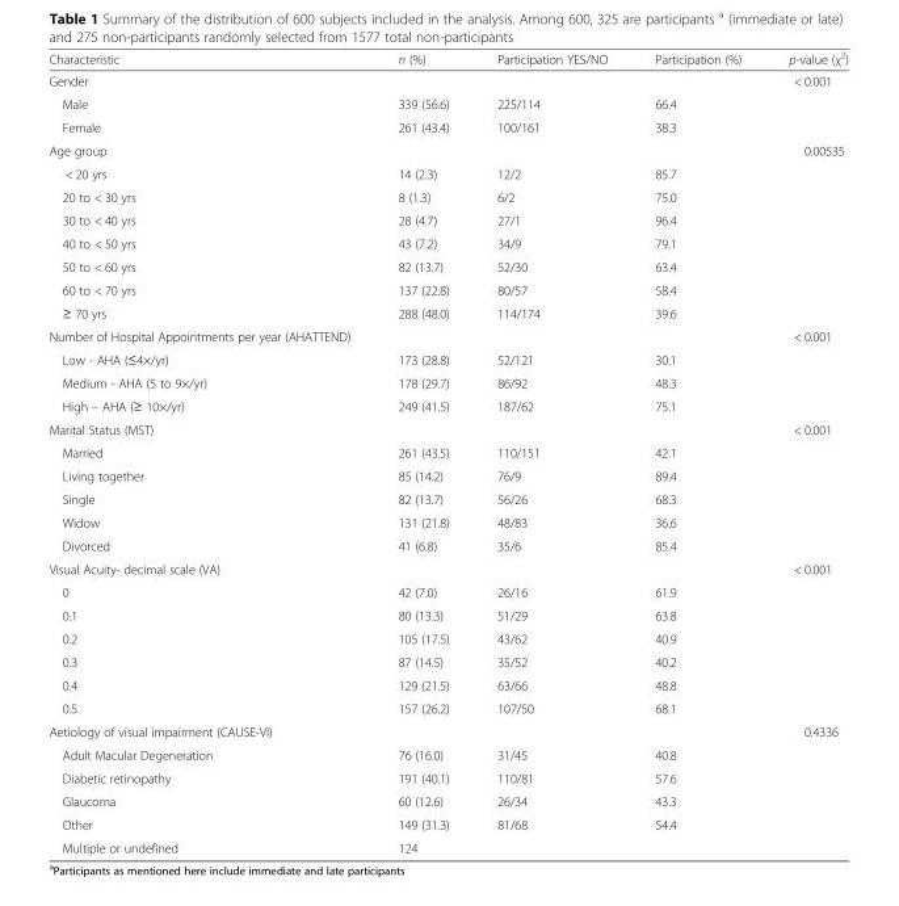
<table><thead><tr><td>Characteristic</td><td>n (%)</td><td>Participation YES/NO</td><td>Participation (%)</td><td>p-value (χ<sup>2</sup>)</td></tr></thead><tbody><tr><td>Gender</td><td></td><td></td><td></td><td>&lt; 0.001</td></tr><tr><td>Male</td><td>339 (56.6)</td><td>225/114</td><td>66.4</td><td></td></tr><tr><td>Female</td><td>261 (43.4)</td><td>100/161</td><td>38.3</td><td></td></tr><tr><td>Age group</td><td></td><td></td><td></td><td>0.00535</td></tr><tr><td>&lt; 20 yrs</td><td>14 (2.3)</td><td>12/2</td><td>85.7</td><td></td></tr><tr><td>20 to &lt; 30 yrs</td><td>8 (1.3)</td><td>6/2</td><td>75.0</td><td></td></tr><tr><td>30 to &lt; 40 yrs</td><td>28 (4.7)</td><td>27/1</td><td>96.4</td><td></td></tr><tr><td>40 to &lt; 50 yrs</td><td>43 (7.2)</td><td>34/9</td><td>79.1</td><td></td></tr><tr><td>50 to &lt; 60 yrs</td><td>82 (13.7)</td><td>52/30</td><td>63.4</td><td></td></tr><tr><td>60 to &lt; 70 yrs</td><td>137 (22.8)</td><td>80/57</td><td>58.4</td><td></td></tr><tr><td>≥ 70 yrs</td><td>288 (48.0)</td><td>114/174</td><td>39.6</td><td></td></tr><tr><td>Number of Hospital Appointments per year (AHATTEND)</td><td></td><td></td><td></td><td>&lt; 0.001</td></tr><tr><td>Low - AHA (≤4×/yr)</td><td>173 (28.8)</td><td>52/121</td><td>30.1</td><td></td></tr><tr><td>Medium - AHA (5 to 9×/yr)</td><td>178 (29.7)</td><td>86/92</td><td>48.3</td><td></td></tr><tr><td>High – AHA (≥ 10×/yr)</td><td>249 (41.5)</td><td>187/62</td><td>75.1</td><td></td></tr><tr><td>Marital Status (MST)</td><td></td><td></td><td></td><td>&lt; 0.001</td></tr><tr><td>Married</td><td>261 (43.5)</td><td>110/151</td><td>42.1</td><td></td></tr><tr><td>Living together</td><td>85 (14.2)</td><td>76/9</td><td>89.4</td><td></td></tr><tr><td>Single</td><td>82 (13.7)</td><td>56/26</td><td>68.3</td><td></td></tr><tr><td>Widow</td><td>131 (21.8)</td><td>48/83</td><td>36.6</td><td></td></tr><tr><td>Divorced</td><td>41 (6.8)</td><td>35/6</td><td>85.4</td><td></td></tr><tr><td>Visual Acuity- decimal scale (VA)</td><td></td><td></td><td></td><td>&lt; 0.001</td></tr><tr><td>0</td><td>42 (7.0)</td><td>26/16</td><td>61.9</td><td></td></tr><tr><td>0.1</td><td>80 (13.3)</td><td>51/29</td><td>63.8</td><td></td></tr><tr><td>0.2</td><td>105 (17.5)</td><td>43/62</td><td>40.9</td><td></td></tr><tr><td>0.3</td><td>87 (14.5)</td><td>35/52</td><td>40.2</td><td></td></tr><tr><td>0.4</td><td>129 (21.5)</td><td>63/66</td><td>48.8</td><td></td></tr><tr><td>0.5</td><td>157 (26.2)</td><td>107/50</td><td>68.1</td><td></td></tr><tr><td>Aetiology of visual impairment (CAUSE-VI)</td><td></td><td></td><td></td><td>0.4336</td></tr><tr><td>Adult Macular Degeneration</td><td>76 (16.0)</td><td>31/45</td><td>40.8</td><td></td></tr><tr><td>Diabetic retinopathy</td><td>191 (40.1)</td><td>110/81</td><td>57.6</td><td></td></tr><tr><td>Glaucoma</td><td>60 (12.6)</td><td>26/34</td><td>43.3</td><td></td></tr><tr><td>Other</td><td>149 (31.3)</td><td>81/68</td><td>54.4</td><td></td></tr><tr><td>Multiple or undefined</td><td>124</td><td></td><td></td><td></td></tr></tbody></table>